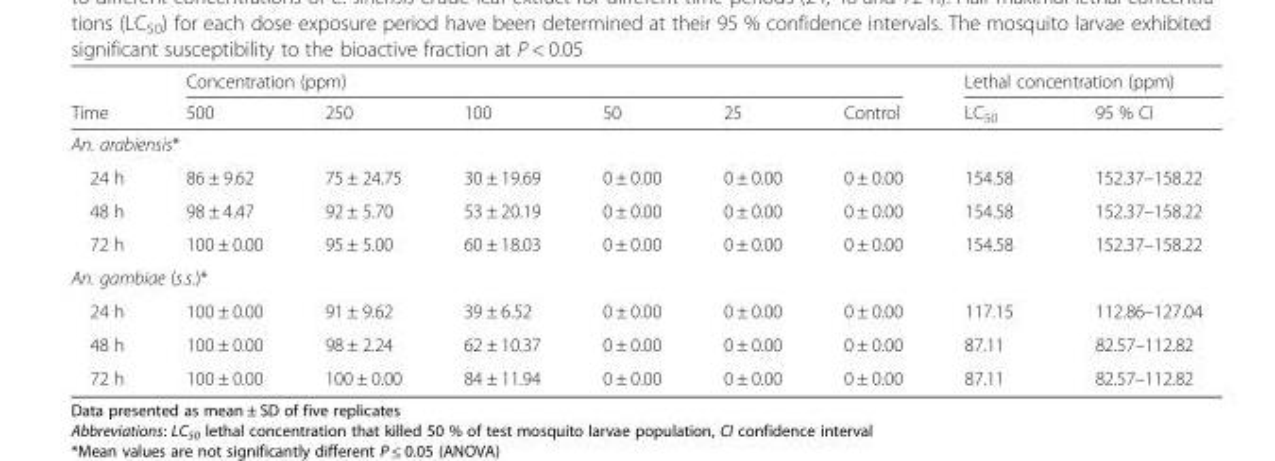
<table><thead><tr><td rowspan="2">Time</td><td colspan="6">Concentration (ppm)</td><td colspan="2">Lethal concentration (ppm)</td></tr><tr><td>500</td><td>250</td><td>100</td><td>50</td><td>25</td><td>Control</td><td>LC<sub>50</sub></td><td>95 % CI</td></tr></thead><tbody><tr><td colspan="9">An. arabiensis*</td></tr><tr><td>24 h</td><td>86 ± 9.62</td><td>75 ± 24.75</td><td>30 ± 19.69</td><td>0 ± 0.00</td><td>0 ± 0.00</td><td>0 ± 0.00</td><td>154.58</td><td>152.37–158.22</td></tr><tr><td>48 h</td><td>98 ± 4.47</td><td>92 ± 5.70</td><td>53 ± 20.19</td><td>0 ± 0.00</td><td>0 ± 0.00</td><td>0 ± 0.00</td><td>154.58</td><td>152.37–158.22</td></tr><tr><td>72 h</td><td>100 ± 0.00</td><td>95 ± 5.00</td><td>60 ± 18.03</td><td>0 ± 0.00</td><td>0 ± 0.00</td><td>0 ± 0.00</td><td>154.58</td><td>152.37–158.22</td></tr><tr><td colspan="9">An. gambiae (s.s.)*</td></tr><tr><td>24 h</td><td>100 ± 0.00</td><td>91 ± 9.62</td><td>39 ± 6.52</td><td>0 ± 0.00</td><td>0 ± 0.00</td><td>0 ± 0.00</td><td>117.15</td><td>112.86–127.04</td></tr><tr><td>48 h</td><td>100 ± 0.00</td><td>98 ± 2.24</td><td>62 ± 10.37</td><td>0 ± 0.00</td><td>0 ± 0.00</td><td>0 ± 0.00</td><td>87.11</td><td>82.57–112.82</td></tr><tr><td>72 h</td><td>100 ± 0.00</td><td>100 ± 0.00</td><td>84 ± 11.94</td><td>0 ± 0.00</td><td>0 ± 0.00</td><td>0 ± 0.00</td><td>87.11</td><td>82.57–112.82</td></tr></tbody></table>